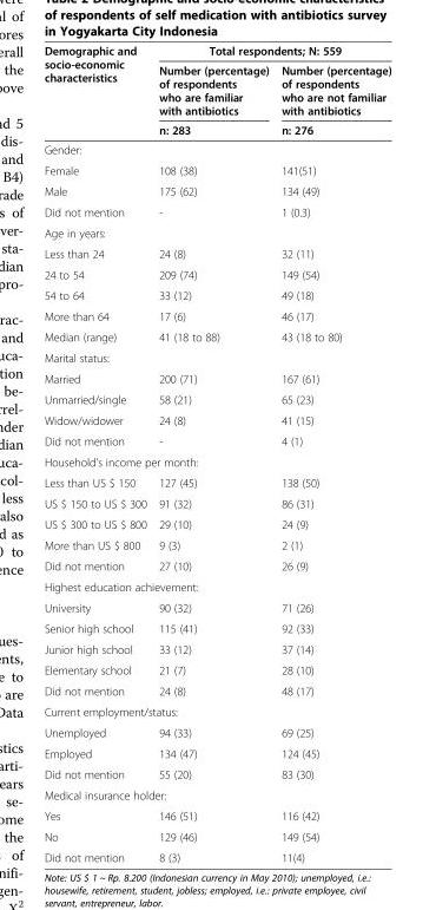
<table><thead><tr><td rowspan="3">Demographic and socio-economic characteristics</td><td colspan="2">Total respondents; N: 559</td></tr><tr><td rowspan="2">Number (percentage) of respondents who are familiar with antibiotics n: 283</td><td rowspan="2">Number (percentage) of respondents who are not familiar with antibiotics n: 276</td></tr><tr></tr></thead><tbody><tr><td colspan="3">Gender:</td></tr><tr><td>Female</td><td>108 (38)</td><td>141(51)</td></tr><tr><td>Male</td><td>175 (62)</td><td>134 (49)</td></tr><tr><td>Did not mention</td><td>-</td><td>1 (0.3)</td></tr><tr><td colspan="3">Age in years:</td></tr><tr><td>Less than 24</td><td>24 (8)</td><td>32 (11)</td></tr><tr><td>24 to 54</td><td>209 (74)</td><td>149 (54)</td></tr><tr><td>54 to 64</td><td>33 (12)</td><td>49 (18)</td></tr><tr><td>More than 64</td><td>17 (6)</td><td>46 (17)</td></tr><tr><td>Median (range)</td><td>41 (18 to 88)</td><td>43 (18 to 80)</td></tr><tr><td colspan="3">Marital status:</td></tr><tr><td>Married</td><td>200 (71)</td><td>167 (61)</td></tr><tr><td>Unmarried/single</td><td>58 (21)</td><td>65 (23)</td></tr><tr><td>Widow/widower</td><td>24 (8)</td><td>41 (15)</td></tr><tr><td>Did not mention</td><td>-</td><td>4 (1)</td></tr><tr><td colspan="3">Household’s income per month:</td></tr><tr><td>Less than US $ 150</td><td>127 (45)</td><td>138 (50)</td></tr><tr><td>US $ 150 to US $ 300</td><td>91 (32)</td><td>86 (31)</td></tr><tr><td>US $ 300 to US $ 800</td><td>29 (10)</td><td>24 (9)</td></tr><tr><td>More than US $ 800</td><td>9 (3)</td><td>2 (1)</td></tr><tr><td>Did not mention</td><td>27 (10)</td><td>26 (9)</td></tr><tr><td colspan="3">Highest education achievement:</td></tr><tr><td>University</td><td>90 (32)</td><td>71 (26)</td></tr><tr><td>Senior high school</td><td>115 (41)</td><td>92 (33)</td></tr><tr><td>Junior high school</td><td>33 (12)</td><td>37 (14)</td></tr><tr><td>Elementary school</td><td>21 (7)</td><td>28 (10)</td></tr><tr><td>Did not mention</td><td>24 (8)</td><td>48 (17)</td></tr><tr><td colspan="3">Current employment/status:</td></tr><tr><td>Unemployed</td><td>94 (33)</td><td>69 (25)</td></tr><tr><td>Employed</td><td>134 (47)</td><td>124 (45)</td></tr><tr><td>Did not mention</td><td>55 (20)</td><td>83 (30)</td></tr><tr><td colspan="3">Medical insurance holder:</td></tr><tr><td>Yes</td><td>146 (51)</td><td>116 (42)</td></tr><tr><td>No</td><td>129 (46)</td><td>149 (54)</td></tr><tr><td>Did not mention</td><td>8 (3)</td><td>11(4)</td></tr></tbody></table>